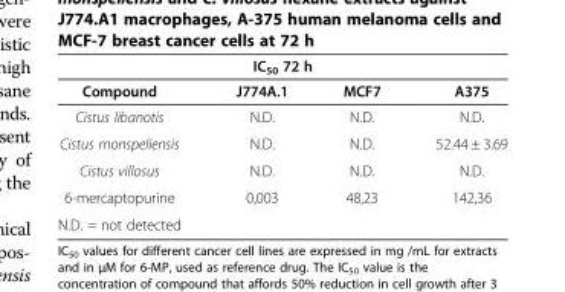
<table><thead><tr><td colspan="4">IC<sub>50</sub> 72 h</td></tr><tr><td>Compound</td><td>J774A.1</td><td>MCF7</td><td>A375</td></tr></thead><tbody><tr><td>Cistus libanotis</td><td>N.D.</td><td>N.D.</td><td>N.D.</td></tr><tr><td>Cistus monspeliensis</td><td>N.D.</td><td>N.D.</td><td>52.44 ± 3.69</td></tr><tr><td>Cistus villosus</td><td>N.D.</td><td>N.D.</td><td>N.D.</td></tr><tr><td>6-mercaptopurine</td><td>0,003</td><td>48,23</td><td>142,36</td></tr><tr><td>N.D. = not detected</td><td></td><td></td><td></td></tr></tbody></table>